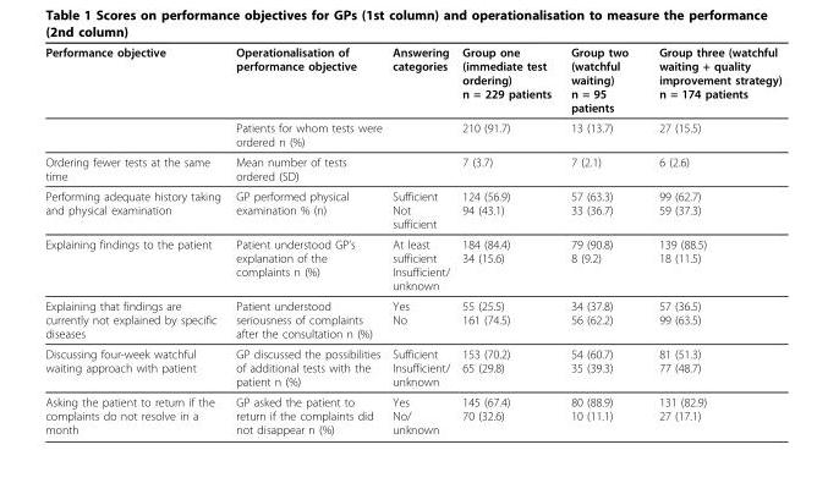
<table><thead><tr><td>Performance objective</td><td>Operationalisation of performance objective</td><td>Answering categories</td><td>Group one (immediate test ordering) n = 229 patients</td><td>Group two (watchful waiting) n = 95 patients</td><td>Group three (watchful waiting + quality improvement strategy) n = 174 patients</td></tr></thead><tbody><tr><td></td><td>Patients for whom tests were ordered n (%)</td><td></td><td>210 (91.7)</td><td>13 (13.7)</td><td>27 (15.5)</td></tr><tr><td>Ordering fewer tests at the same time</td><td>Mean number of tests ordered (SD)</td><td></td><td>7 (3.7)</td><td>7 (2.1)</td><td>6 (2.6)</td></tr><tr><td>Performing adequate history taking and physical examination</td><td>GP performed physical examination % (n)</td><td>Sufficient Not sufficient</td><td>124 (56.9) 94 (43.1)</td><td>57 (63.3) 33 (36.7)</td><td>99 (62.7) 59 (37.3)</td></tr><tr><td>Explaining findings to the patient</td><td>Patient understood GP’s explanation of the complaints n (%)</td><td>At least sufficient Insufficient/ unknown</td><td>184 (84.4) 34 (15.6)</td><td>79 (90.8) 8 (9.2)</td><td>139 (88.5) 18 (11.5)</td></tr><tr><td>Explaining that findings are currently not explained by specific diseases</td><td>Patient understood seriousness of complaints after the consultation n (%)</td><td>Yes No</td><td>55 (25.5) 161 (74.5)</td><td>34 (37.8) 56 (62.2)</td><td>57 (36.5) 99 (63.5)</td></tr><tr><td>Discussing four-week watchful waiting approach with patient</td><td>GP discussed the possibilities of additional tests with the patient n (%)</td><td>Sufficient Insufficient/ unknown</td><td>153 (70.2) 65 (29.8)</td><td>54 (60.7) 35 (39.3)</td><td>81 (51.3) 77 (48.7)</td></tr><tr><td>Asking the patient to return if the complaints do not resolve in a month</td><td>GP asked the patient to return if the complaints did not disappear n (%)</td><td>Yes No/ unknown</td><td>145 (67.4) 70 (32.6)</td><td>80 (88.9) 10 (11.1)</td><td>131 (82.9) 27 (17.1)</td></tr></tbody></table>